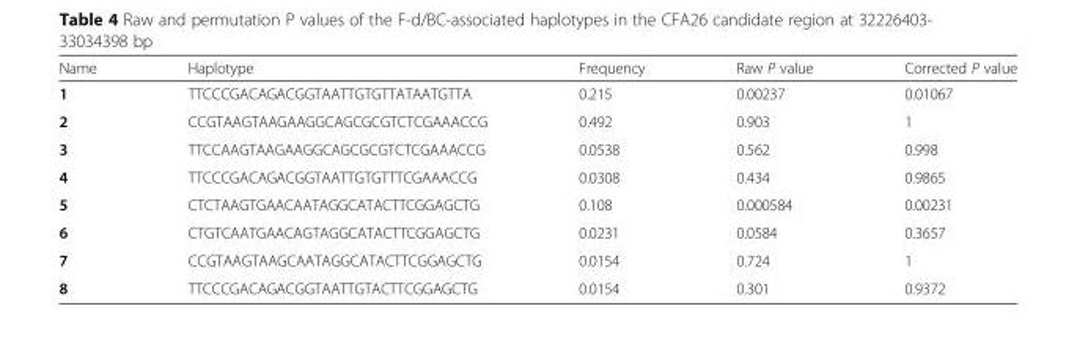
<table><thead><tr><td>Name</td><td>Haplotype</td><td>Frequency</td><td>Raw P value</td><td>Corrected P value</td></tr></thead><tbody><tr><td>1</td><td>TTCCCGACAGACGGTAATTGTGTTATAATGTTA</td><td>0.215</td><td>0.00237</td><td>0.01067</td></tr><tr><td>2</td><td>CCGTAAGTAAGAAGGCAGCGCGTCTCGAAACCG</td><td>0.492</td><td>0.903</td><td>1</td></tr><tr><td>3</td><td>TTCCAAGTAAGAAGGCAGCGCGTCTCGAAACCG</td><td>0.0538</td><td>0.562</td><td>0.998</td></tr><tr><td>4</td><td>TTCCCGACAGACGGTAATTGTGTTTCGAAACCG</td><td>0.0308</td><td>0.434</td><td>0.9865</td></tr><tr><td>5</td><td>CTCTAAGTGAACAATAGGCATACTTCGGAGCTG</td><td>0.108</td><td>0.000584</td><td>0.00231</td></tr><tr><td>6</td><td>CTGTCAATGAACAGTAGGCATACTTCGGAGCTG</td><td>0.0231</td><td>0.0584</td><td>0.3657</td></tr><tr><td>7</td><td>CCGTAAGTAAGCAATAGGCATACTTCGGAGCTG</td><td>0.0154</td><td>0.724</td><td>1</td></tr><tr><td>8</td><td>TTCCCGACAGACGGTAATTGTACTTCGGAGCTG</td><td>0.0154</td><td>0.301</td><td>0.9372</td></tr></tbody></table>